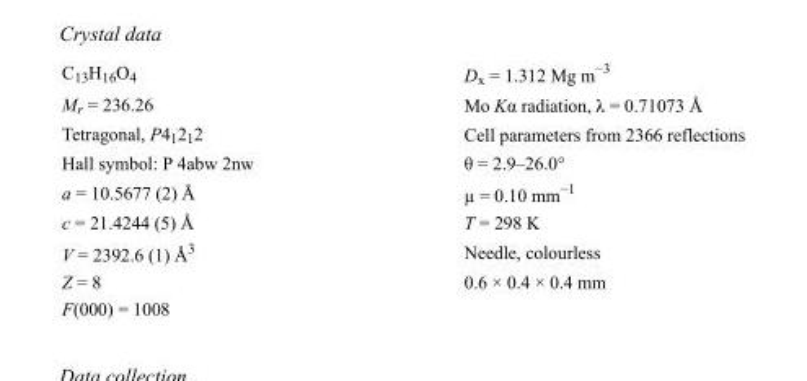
<table><tbody><tr><td>C<sub>13</sub>H<sub>16</sub>O<sub>4</sub></td><td>D<sub>x</sub> = 1.312 Mg m<sup>−3</sup></td></tr><tr><td>M<sub>r</sub> = 236.26</td><td>Mo Kα radiation, λ = 0.71073 Å</td></tr><tr><td>Tetragonal, P4<sub>1</sub>2<sub>1</sub>2</td><td>Cell parameters from 2366 reflections</td></tr><tr><td>Hall symbol: P 4abw 2nw</td><td>θ = 2.9–26.0°</td></tr><tr><td>a = 10.5677 (2) Å</td><td>µ = 0.10 mm<sup>−1</sup></td></tr><tr><td>c = 21.4244 (5) Å</td><td>T = 298 K</td></tr><tr><td>V = 2392.6 (1) Å<sup>3</sup></td><td>Needle, colourless</td></tr><tr><td>Z = 8</td><td>0.6 × 0.4 × 0.4 mm</td></tr><tr><td>F(000) = 1008</td><td></td></tr></tbody></table>